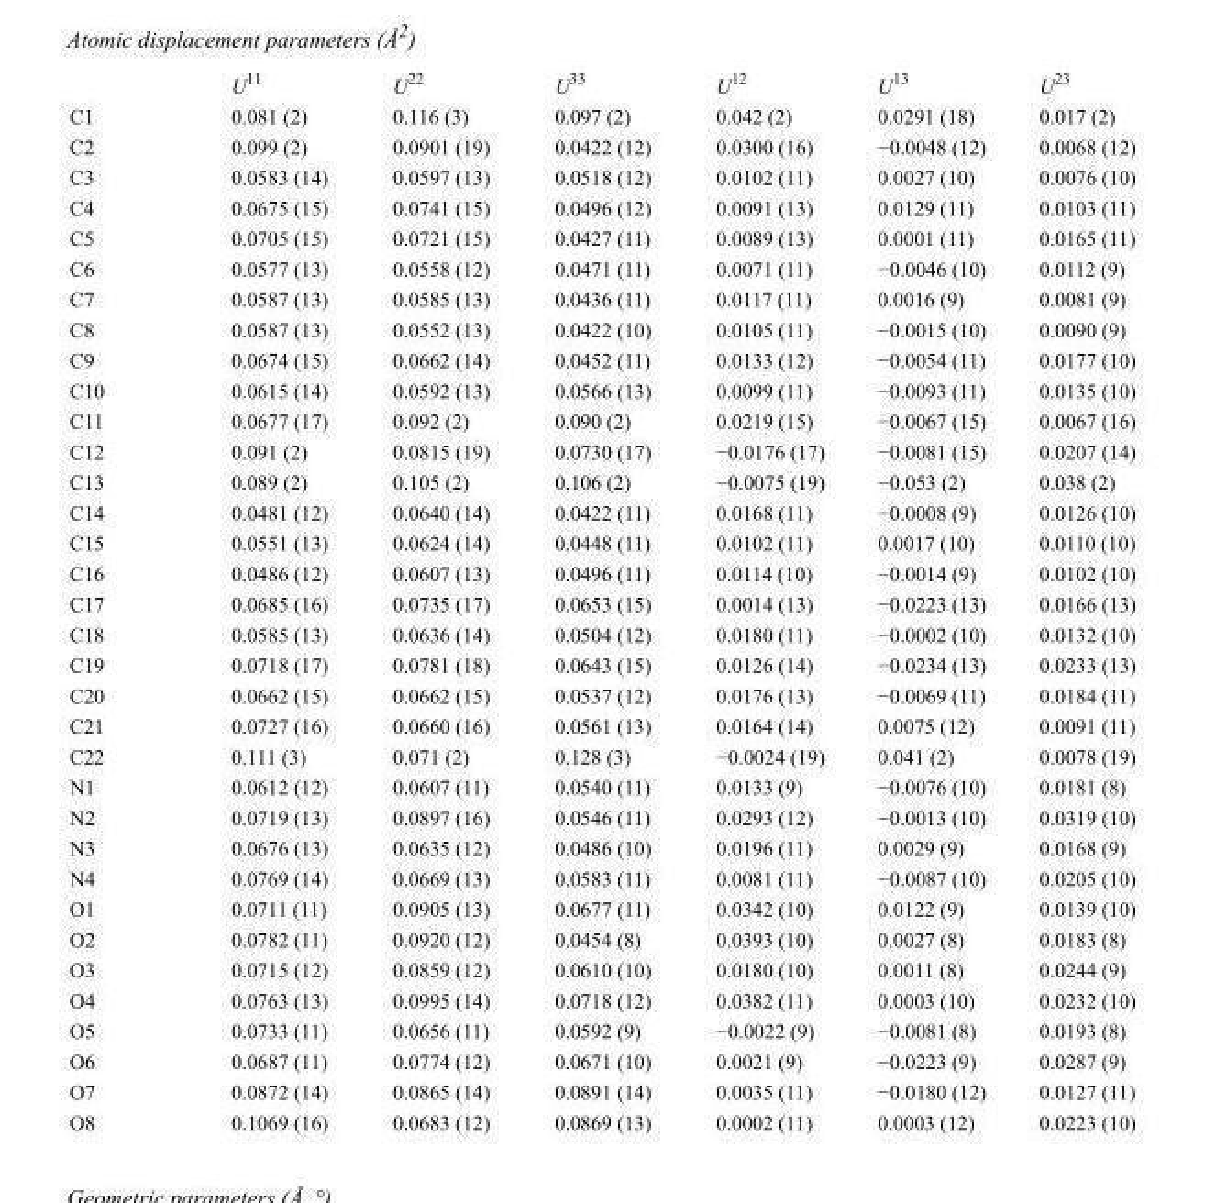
<table><thead><tr><td></td><td>U<sup>11</sup></td><td>U<sup>22</sup></td><td>U<sup>33</sup></td><td>U<sup>12</sup></td><td>U<sup>13</sup></td><td>U<sup>23</sup></td></tr></thead><tbody><tr><td>C1</td><td>0.081 (2)</td><td>0.116 (3)</td><td>0.097 (2)</td><td>0.042 (2)</td><td>0.0291 (18)</td><td>0.017 (2)</td></tr><tr><td>C2</td><td>0.099 (2)</td><td>0.0901 (19)</td><td>0.0422 (12)</td><td>0.0300 (16)</td><td>−0.0048 (12)</td><td>0.0068 (12)</td></tr><tr><td>C3</td><td>0.0583 (14)</td><td>0.0597 (13)</td><td>0.0518 (12)</td><td>0.0102 (11)</td><td>0.0027 (10)</td><td>0.0076 (10)</td></tr><tr><td>C4</td><td>0.0675 (15)</td><td>0.0741 (15)</td><td>0.0496 (12)</td><td>0.0091 (13)</td><td>0.0129 (11)</td><td>0.0103 (11)</td></tr><tr><td>C5</td><td>0.0705 (15)</td><td>0.0721 (15)</td><td>0.0427 (11)</td><td>0.0089 (13)</td><td>0.0001 (11)</td><td>0.0165 (11)</td></tr><tr><td>C6</td><td>0.0577 (13)</td><td>0.0558 (12)</td><td>0.0471 (11)</td><td>0.0071 (11)</td><td>−0.0046 (10)</td><td>0.0112 (9)</td></tr><tr><td>C7</td><td>0.0587 (13)</td><td>0.0585 (13)</td><td>0.0436 (11)</td><td>0.0117 (11)</td><td>0.0016 (9)</td><td>0.0081 (9)</td></tr><tr><td>C8</td><td>0.0587 (13)</td><td>0.0552 (13)</td><td>0.0422 (10)</td><td>0.0105 (11)</td><td>−0.0015 (10)</td><td>0.0090 (9)</td></tr><tr><td>C9</td><td>0.0674 (15)</td><td>0.0662 (14)</td><td>0.0452 (11)</td><td>0.0133 (12)</td><td>−0.0054 (11)</td><td>0.0177 (10)</td></tr><tr><td>C10</td><td>0.0615 (14)</td><td>0.0592 (13)</td><td>0.0566 (13)</td><td>0.0099 (11)</td><td>−0.0093 (11)</td><td>0.0135 (10)</td></tr><tr><td>C11</td><td>0.0677 (17)</td><td>0.092 (2)</td><td>0.090 (2)</td><td>0.0219 (15)</td><td>−0.0067 (15)</td><td>0.0067 (16)</td></tr><tr><td>C12</td><td>0.091 (2)</td><td>0.0815 (19)</td><td>0.0730 (17)</td><td>−0.0176 (17)</td><td>−0.0081 (15)</td><td>0.0207 (14)</td></tr><tr><td>C13</td><td>0.089 (2)</td><td>0.105 (2)</td><td>0.106 (2)</td><td>−0.0075 (19)</td><td>−0.053 (2)</td><td>0.038 (2)</td></tr><tr><td>C14</td><td>0.0481 (12)</td><td>0.0640 (14)</td><td>0.0422 (11)</td><td>0.0168 (11)</td><td>−0.0008 (9)</td><td>0.0126 (10)</td></tr><tr><td>C15</td><td>0.0551 (13)</td><td>0.0624 (14)</td><td>0.0448 (11)</td><td>0.0102 (11)</td><td>0.0017 (10)</td><td>0.0110 (10)</td></tr><tr><td>C16</td><td>0.0486 (12)</td><td>0.0607 (13)</td><td>0.0496 (11)</td><td>0.0114 (10)</td><td>−0.0014 (9)</td><td>0.0102 (10)</td></tr><tr><td>C17</td><td>0.0685 (16)</td><td>0.0735 (17)</td><td>0.0653 (15)</td><td>0.0014 (13)</td><td>−0.0223 (13)</td><td>0.0166 (13)</td></tr><tr><td>C18</td><td>0.0585 (13)</td><td>0.0636 (14)</td><td>0.0504 (12)</td><td>0.0180 (11)</td><td>−0.0002 (10)</td><td>0.0132 (10)</td></tr><tr><td>C19</td><td>0.0718 (17)</td><td>0.0781 (18)</td><td>0.0643 (15)</td><td>0.0126 (14)</td><td>−0.0234 (13)</td><td>0.0233 (13)</td></tr><tr><td>C20</td><td>0.0662 (15)</td><td>0.0662 (15)</td><td>0.0537 (12)</td><td>0.0176 (13)</td><td>−0.0069 (11)</td><td>0.0184 (11)</td></tr><tr><td>C21</td><td>0.0727 (16)</td><td>0.0660 (16)</td><td>0.0561 (13)</td><td>0.0164 (14)</td><td>0.0075 (12)</td><td>0.0091 (11)</td></tr><tr><td>C22</td><td>0.111 (3)</td><td>0.071 (2)</td><td>0.128 (3)</td><td>−0.0024 (19)</td><td>0.041 (2)</td><td>0.0078 (19)</td></tr><tr><td>N1</td><td>0.0612 (12)</td><td>0.0607 (11)</td><td>0.0540 (11)</td><td>0.0133 (9)</td><td>−0.0076 (10)</td><td>0.0181 (8)</td></tr><tr><td>N2</td><td>0.0719 (13)</td><td>0.0897 (16)</td><td>0.0546 (11)</td><td>0.0293 (12)</td><td>−0.0013 (10)</td><td>0.0319 (10)</td></tr><tr><td>N3</td><td>0.0676 (13)</td><td>0.0635 (12)</td><td>0.0486 (10)</td><td>0.0196 (11)</td><td>0.0029 (9)</td><td>0.0168 (9)</td></tr><tr><td>N4</td><td>0.0769 (14)</td><td>0.0669 (13)</td><td>0.0583 (11)</td><td>0.0081 (11)</td><td>−0.0087 (10)</td><td>0.0205 (10)</td></tr><tr><td>O1</td><td>0.0711 (11)</td><td>0.0905 (13)</td><td>0.0677 (11)</td><td>0.0342 (10)</td><td>0.0122 (9)</td><td>0.0139 (10)</td></tr><tr><td>O2</td><td>0.0782 (11)</td><td>0.0920 (12)</td><td>0.0454 (8)</td><td>0.0393 (10)</td><td>0.0027 (8)</td><td>0.0183 (8)</td></tr><tr><td>O3</td><td>0.0715 (12)</td><td>0.0859 (12)</td><td>0.0610 (10)</td><td>0.0180 (10)</td><td>0.0011 (8)</td><td>0.0244 (9)</td></tr><tr><td>O4</td><td>0.0763 (13)</td><td>0.0995 (14)</td><td>0.0718 (12)</td><td>0.0382 (11)</td><td>0.0003 (10)</td><td>0.0232 (10)</td></tr><tr><td>O5</td><td>0.0733 (11)</td><td>0.0656 (11)</td><td>0.0592 (9)</td><td>−0.0022 (9)</td><td>−0.0081 (8)</td><td>0.0193 (8)</td></tr><tr><td>O6</td><td>0.0687 (11)</td><td>0.0774 (12)</td><td>0.0671 (10)</td><td>0.0021 (9)</td><td>−0.0223 (9)</td><td>0.0287 (9)</td></tr><tr><td>O7</td><td>0.0872 (14)</td><td>0.0865 (14)</td><td>0.0891 (14)</td><td>0.0035 (11)</td><td>−0.0180 (12)</td><td>0.0127 (11)</td></tr><tr><td>O8</td><td>0.1069 (16)</td><td>0.0683 (12)</td><td>0.0869 (13)</td><td>0.0002 (11)</td><td>0.0003 (12)</td><td>0.0223 (10)</td></tr></tbody></table>